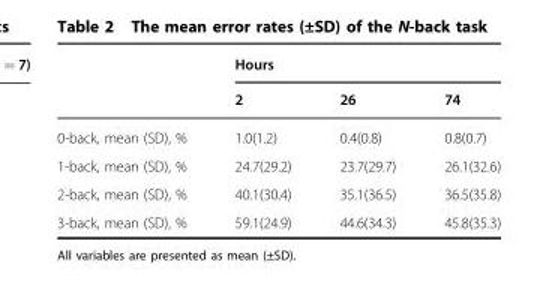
<table><thead><tr><td rowspan="2"></td><td colspan="3">Hours</td></tr><tr><td>2</td><td>26</td><td>74</td></tr></thead><tbody><tr><td>0-back, mean (SD), %</td><td>1.0(1.2)</td><td>0.4(0.8)</td><td>0.8(0.7)</td></tr><tr><td>1-back, mean (SD), %</td><td>24.7(29.2)</td><td>23.7(29.7)</td><td>26.1(32.6)</td></tr><tr><td>2-back, mean (SD), %</td><td>40.1(30.4)</td><td>35.1(36.5)</td><td>36.5(35.8)</td></tr><tr><td>3-back, mean (SD), %</td><td>59.1(24.9)</td><td>44.6(34.3)</td><td>45.8(35.3)</td></tr></tbody></table>